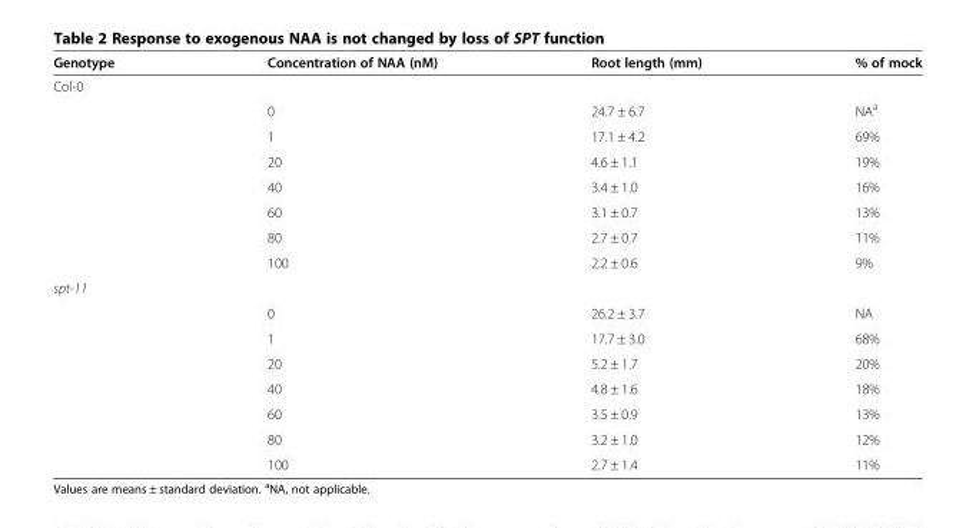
<table><thead><tr><td>Genotype</td><td>Concentration of NAA (nM)</td><td>Root length (mm)</td><td>% of mock</td></tr></thead><tbody><tr><td colspan="4">Col-0</td></tr><tr><td></td><td>0</td><td>24.7 ± 6.7</td><td>NA<sup>a</sup></td></tr><tr><td></td><td>1</td><td>17.1 ± 4.2</td><td>69%</td></tr><tr><td></td><td>20</td><td>4.6 ± 1.1</td><td>19%</td></tr><tr><td></td><td>40</td><td>3.4 ± 1.0</td><td>16%</td></tr><tr><td></td><td>60</td><td>3.1 ± 0.7</td><td>13%</td></tr><tr><td></td><td>80</td><td>2.7 ± 0.7</td><td>11%</td></tr><tr><td></td><td>100</td><td>2.2 ± 0.6</td><td>9%</td></tr><tr><td colspan="4">spt-11</td></tr><tr><td></td><td>0</td><td>26.2 ± 3.7</td><td>NA</td></tr><tr><td></td><td>1</td><td>17.7 ± 3.0</td><td>68%</td></tr><tr><td></td><td>20</td><td>5.2 ± 1.7</td><td>20%</td></tr><tr><td></td><td>40</td><td>4.8 ± 1.6</td><td>18%</td></tr><tr><td></td><td>60</td><td>3.5 ± 0.9</td><td>13%</td></tr><tr><td></td><td>80</td><td>3.2 ± 1.0</td><td>12%</td></tr><tr><td></td><td>100</td><td>2.7 ± 1.4</td><td>11%</td></tr></tbody></table>